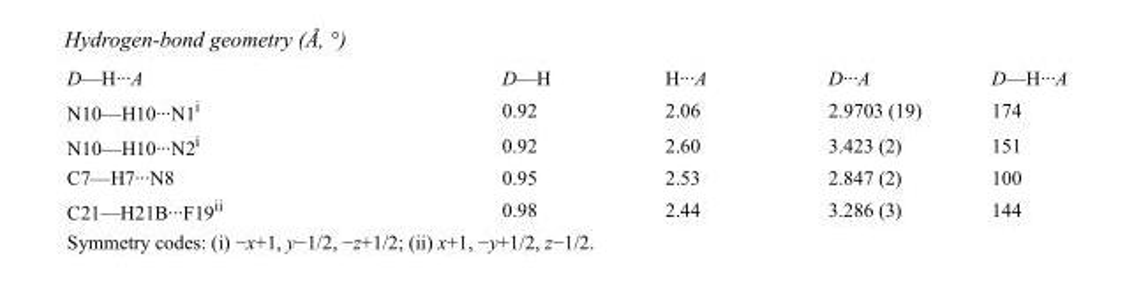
<table><tbody><tr><td>D—H···A</td><td>D—H</td><td>H···A</td><td>D···A</td><td>D—H···A</td></tr><tr><td>N10—H10···N1<sup>i</sup></td><td>0.92</td><td>2.06</td><td>2.9703 (19)</td><td>174</td></tr><tr><td>N10—H10···N2<sup>i</sup></td><td>0.92</td><td>2.60</td><td>3.423 (2)</td><td>151</td></tr><tr><td>C7—H7···N8</td><td>0.95</td><td>2.53</td><td>2.847 (2)</td><td>100</td></tr><tr><td>C21—H21B···F19<sup>ii</sup></td><td>0.98</td><td>2.44</td><td>3.286 (3)</td><td>144</td></tr></tbody></table>